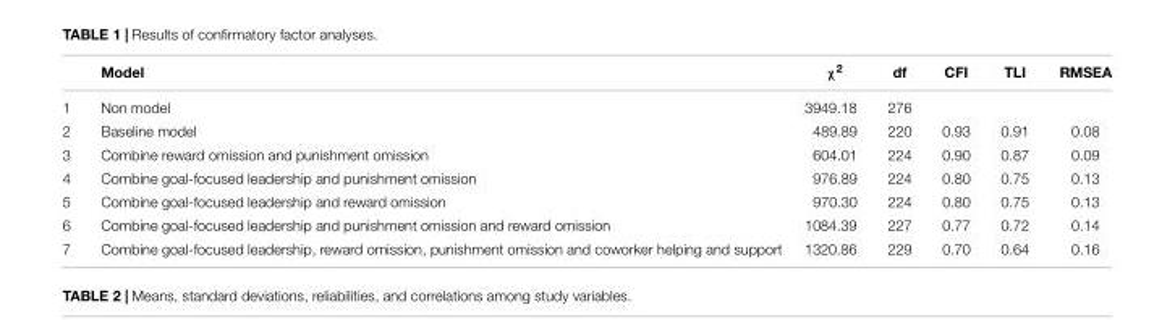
<table><thead><tr><td></td><td>Model</td><td>χ<sup>2</sup></td><td>df</td><td>CFI</td><td>TLI</td><td>RMSEA</td></tr></thead><tbody><tr><td>1</td><td>Non model</td><td>3949.18</td><td>276</td><td></td><td></td><td></td></tr><tr><td>2</td><td>Baseline model</td><td>489.89</td><td>220</td><td>0.93</td><td>0.91</td><td>0.08</td></tr><tr><td>3</td><td>Combine reward omission and punishment omission</td><td>604.01</td><td>224</td><td>0.90</td><td>0.87</td><td>0.09</td></tr><tr><td>4</td><td>Combine goal-focused leadership and punishment omission</td><td>976.89</td><td>224</td><td>0.80</td><td>0.75</td><td>0.13</td></tr><tr><td>5</td><td>Combine goal-focused leadership and reward omission</td><td>970.30</td><td>224</td><td>0.80</td><td>0.75</td><td>0.13</td></tr><tr><td>6</td><td>Combine goal-focused leadership and punishment omission and reward omission</td><td>1084.39</td><td>227</td><td>0.77</td><td>0.72</td><td>0.14</td></tr><tr><td>7</td><td>Combine goal-focused leadership, reward omission, punishment omission and coworker helping and support</td><td>1320.86</td><td>229</td><td>0.70</td><td>0.64</td><td>0.16</td></tr></tbody></table>